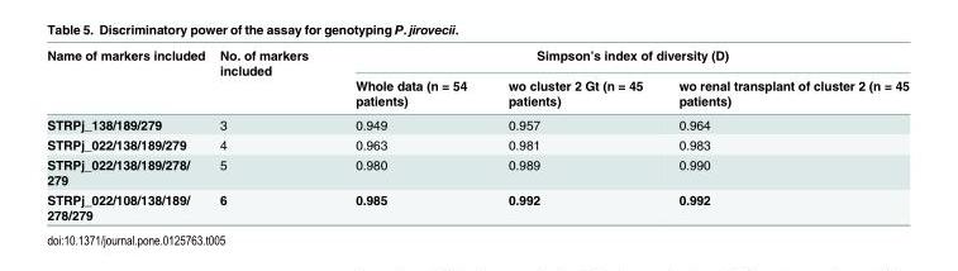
<table><thead><tr><td rowspan="2">Name of markers included</td><td rowspan="2">No. of markers included</td><td colspan="3">Simpson’s index of diversity (D)</td></tr><tr><td>Whole data (n = 54 patients)</td><td>wo cluster 2 Gt (n = 45 patients)</td><td>wo renal transplant of cluster 2 (n = 45 patients)</td></tr></thead><tbody><tr><td>STRPj_138/189/279</td><td>3</td><td>0.949</td><td>0.957</td><td>0.964</td></tr><tr><td>STRPj_022/138/189/279</td><td>4</td><td>0.963</td><td>0.981</td><td>0.983</td></tr><tr><td>STRPj_022/138/189/278/ 279</td><td>5</td><td>0.980</td><td>0.989</td><td>0.990</td></tr><tr><td>STRPj_022/108/138/189/ 278/279</td><td>6</td><td>0.985</td><td>0.992</td><td>0.992</td></tr></tbody></table>